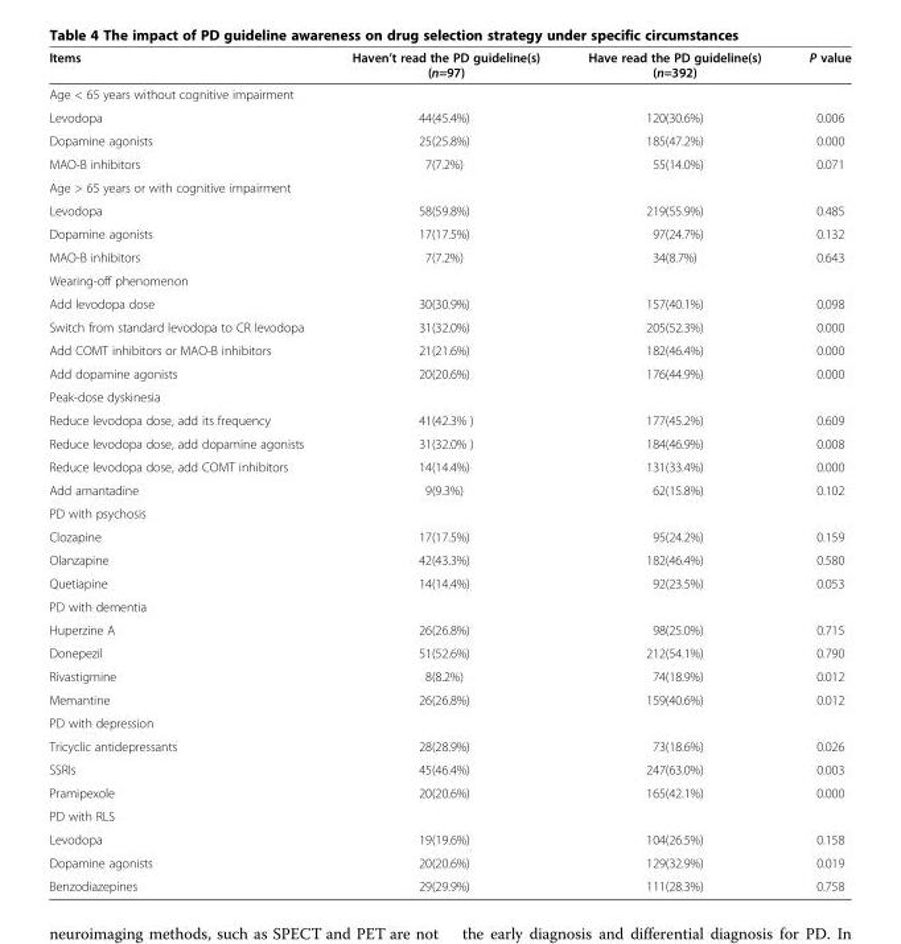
<table><thead><tr><td>Items</td><td>Haven’t read the PD guideline(s) (n=97)</td><td>Have read the PD guideline(s) (n=392)</td><td>P value</td></tr></thead><tbody><tr><td colspan="4">Age &lt; 65 years without cognitive impairment</td></tr><tr><td>Levodopa</td><td>44(45.4%)</td><td>120(30.6%)</td><td>0.006</td></tr><tr><td>Dopamine agonists</td><td>25(25.8%)</td><td>185(47.2%)</td><td>0.000</td></tr><tr><td>MAO-B inhibitors</td><td>7(7.2%)</td><td>55(14.0%)</td><td>0.071</td></tr><tr><td colspan="4">Age &gt; 65 years or with cognitive impairment</td></tr><tr><td>Levodopa</td><td>58(59.8%)</td><td>219(55.9%)</td><td>0.485</td></tr><tr><td>Dopamine agonists</td><td>17(17.5%)</td><td>97(24.7%)</td><td>0.132</td></tr><tr><td>MAO-B inhibitors</td><td>7(7.2%)</td><td>34(8.7%)</td><td>0.643</td></tr><tr><td colspan="4">Wearing-off phenomenon</td></tr><tr><td>Add levodopa dose</td><td>30(30.9%)</td><td>157(40.1%)</td><td>0.098</td></tr><tr><td>Switch from standard levodopa to CR levodopa</td><td>31(32.0%)</td><td>205(52.3%)</td><td>0.000</td></tr><tr><td>Add COMT inhibitors or MAO-B inhibitors</td><td>21(21.6%)</td><td>182(46.4%)</td><td>0.000</td></tr><tr><td>Add dopamine agonists</td><td>20(20.6%)</td><td>176(44.9%)</td><td>0.000</td></tr><tr><td colspan="4">Peak-dose dyskinesia</td></tr><tr><td>Reduce levodopa dose, add its frequency</td><td>41(42.3% )</td><td>177(45.2%)</td><td>0.609</td></tr><tr><td>Reduce levodopa dose, add dopamine agonists</td><td>31(32.0% )</td><td>184(46.9%)</td><td>0.008</td></tr><tr><td>Reduce levodopa dose, add COMT inhibitors</td><td>14(14.4%)</td><td>131(33.4%)</td><td>0.000</td></tr><tr><td>Add amantadine</td><td>9(9.3%)</td><td>62(15.8%)</td><td>0.102</td></tr><tr><td colspan="4">PD with psychosis</td></tr><tr><td>Clozapine</td><td>17(17.5%)</td><td>95(24.2%)</td><td>0.159</td></tr><tr><td>Olanzapine</td><td>42(43.3%)</td><td>182(46.4%)</td><td>0.580</td></tr><tr><td>Quetiapine</td><td>14(14.4%)</td><td>92(23.5%)</td><td>0.053</td></tr><tr><td colspan="4">PD with dementia</td></tr><tr><td>Huperzine A</td><td>26(26.8%)</td><td>98(25.0%)</td><td>0.715</td></tr><tr><td>Donepezil</td><td>51(52.6%)</td><td>212(54.1%)</td><td>0.790</td></tr><tr><td>Rivastigmine</td><td>8(8.2%)</td><td>74(18.9%)</td><td>0.012</td></tr><tr><td>Memantine</td><td>26(26.8%)</td><td>159(40.6%)</td><td>0.012</td></tr><tr><td colspan="4">PD with depression</td></tr><tr><td>Tricyclic antidepressants</td><td>28(28.9%)</td><td>73(18.6%)</td><td>0.026</td></tr><tr><td>SSRIs</td><td>45(46.4%)</td><td>247(63.0%)</td><td>0.003</td></tr><tr><td>Pramipexole</td><td>20(20.6%)</td><td>165(42.1%)</td><td>0.000</td></tr><tr><td colspan="4">PD with RLS</td></tr><tr><td>Levodopa</td><td>19(19.6%)</td><td>104(26.5%)</td><td>0.158</td></tr><tr><td>Dopamine agonists</td><td>20(20.6%)</td><td>129(32.9%)</td><td>0.019</td></tr><tr><td>Benzodiazepines</td><td>29(29.9%)</td><td>111(28.3%)</td><td>0.758</td></tr></tbody></table>